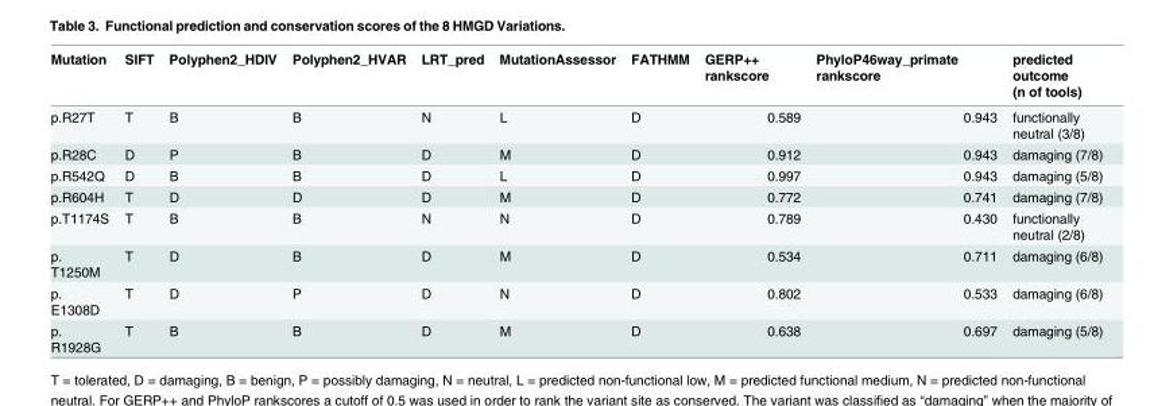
<table><thead><tr><td>Mutation</td><td>SIFT</td><td>Polyphen2_HDIV</td><td>Polyphen2_HVAR</td><td>LRT_pred</td><td>MutationAssessor</td><td>FATHMM</td><td>GERP++ rankscore</td><td>PhyloP46way_primate rankscore</td><td>predicted outcome (n of tools)</td></tr></thead><tbody><tr><td>p.R27T</td><td>T</td><td>B</td><td>B</td><td>N</td><td>L</td><td>D</td><td>0.589</td><td>0.943</td><td>functionally neutral (3/8)</td></tr><tr><td>p.R28C</td><td>D</td><td>P</td><td>B</td><td>D</td><td>M</td><td>D</td><td>0.912</td><td>0.943</td><td>damaging (7/8)</td></tr><tr><td>p.R542Q</td><td>D</td><td>B</td><td>B</td><td>D</td><td>L</td><td>D</td><td>0.997</td><td>0.943</td><td>damaging (5/8)</td></tr><tr><td>p.R604H</td><td>T</td><td>D</td><td>D</td><td>D</td><td>M</td><td>D</td><td>0.772</td><td>0.741</td><td>damaging (7/8)</td></tr><tr><td>p.T1174S</td><td>T</td><td>B</td><td>B</td><td>N</td><td>N</td><td>D</td><td>0.789</td><td>0.430</td><td>functionally neutral (2/8)</td></tr><tr><td>p. T1250M</td><td>T</td><td>D</td><td>B</td><td>D</td><td>M</td><td>D</td><td>0.534</td><td>0.711</td><td>damaging (6/8)</td></tr><tr><td>p. E1308D</td><td>T</td><td>D</td><td>P</td><td>D</td><td>N</td><td>D</td><td>0.802</td><td>0.533</td><td>damaging (6/8)</td></tr><tr><td>p. R1928G</td><td>T</td><td>B</td><td>B</td><td>D</td><td>M</td><td>D</td><td>0.638</td><td>0.697</td><td>damaging (5/8)</td></tr></tbody></table>